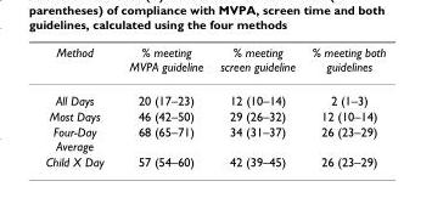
<table><thead><tr><td>Method</td><td>% meeting MVPA guideline</td><td>% meeting screen guideline</td><td>% meeting both guidelines</td></tr></thead><tbody><tr><td>All Days</td><td>20 (17–23)</td><td>12 (10–14)</td><td>2 (1–3)</td></tr><tr><td>Most Days</td><td>46 (42–50)</td><td>29 (26–32)</td><td>12 (10–14)</td></tr><tr><td>Four-Day Average</td><td>68 (65–71)</td><td>34 (31–37)</td><td>26 (23–29)</td></tr><tr><td>Child X Day</td><td>57 (54–60)</td><td>42 (39–45)</td><td>26 (23–29)</td></tr></tbody></table>